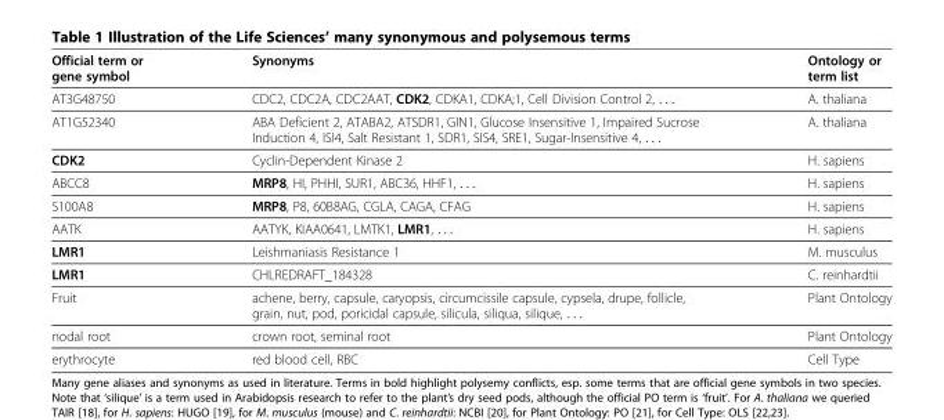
<table><thead><tr><td>Official term or gene symbol</td><td>Synonyms</td><td>Ontology or term list</td></tr></thead><tbody><tr><td>AT3G48750</td><td>CDC2, CDC2A, CDC2AAT, CDK2, CDKA1, CDKA;1, Cell Division Control 2, . . .</td><td>A. thaliana</td></tr><tr><td>AT1G52340</td><td>ABA Deficient 2, ATABA2, ATSDR1, GIN1, Glucose Insensitive 1, Impaired Sucrose Induction 4, ISI4, Salt Resistant 1, SDR1, SIS4, SRE1, Sugar-Insensitive 4, . . .</td><td>A. thaliana</td></tr><tr><td>CDK2</td><td>Cyclin-Dependent Kinase 2</td><td>H. sapiens</td></tr><tr><td>ABCC8</td><td>MRP8, HI, PHHI, SUR1, ABC36, HHF1, . . .</td><td>H. sapiens</td></tr><tr><td>S100A8</td><td>MRP8, P8, 60B8AG, CGLA, CAGA, CFAG</td><td>H. sapiens</td></tr><tr><td>AATK</td><td>AATYK, KIAA0641, LMTK1, LMR1, . . .</td><td>H. sapiens</td></tr><tr><td>LMR1</td><td>Leishmaniasis Resistance 1</td><td>M. musculus</td></tr><tr><td>LMR1</td><td>CHLREDRAFT_184328</td><td>C. reinhardtii</td></tr><tr><td>Fruit</td><td>achene, berry, capsule, caryopsis, circumcissile capsule, cypsela, drupe, follicle, grain, nut, pod, poricidal capsule, silicula, siliqua, silique, . . .</td><td>Plant Ontology</td></tr><tr><td>nodal root</td><td>crown root, seminal root</td><td>Plant Ontology</td></tr><tr><td>erythrocyte</td><td>red blood cell, RBC</td><td>Cell Type</td></tr></tbody></table>